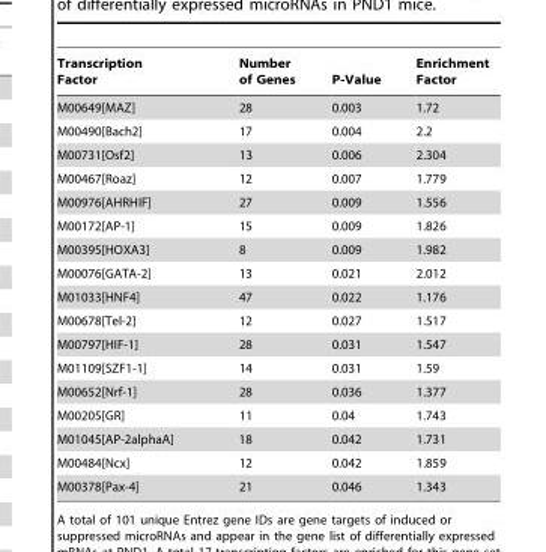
<table><thead><tr><td>Transcription Factor</td><td>Number of Genes</td><td>P-Value</td><td>Enrichment Factor</td></tr></thead><tbody><tr><td>M00649[MAZ]</td><td>28</td><td>0.003</td><td>1.72</td></tr><tr><td>M00490[Bach2]</td><td>17</td><td>0.004</td><td>2.2</td></tr><tr><td>M00731[Osf2]</td><td>13</td><td>0.006</td><td>2.304</td></tr><tr><td>M00467[Roaz]</td><td>12</td><td>0.007</td><td>1.779</td></tr><tr><td>M00976[AHRHIF]</td><td>27</td><td>0.009</td><td>1.556</td></tr><tr><td>M00172[AP-1]</td><td>15</td><td>0.009</td><td>1.826</td></tr><tr><td>M00395[HOXA3]</td><td>8</td><td>0.009</td><td>1.982</td></tr><tr><td>M00076[GATA-2]</td><td>13</td><td>0.021</td><td>2.012</td></tr><tr><td>M01033[HNF4]</td><td>47</td><td>0.022</td><td>1.176</td></tr><tr><td>M00678[Tel-2]</td><td>12</td><td>0.027</td><td>1.517</td></tr><tr><td>M00797[HIF-1]</td><td>28</td><td>0.031</td><td>1.547</td></tr><tr><td>M01109[SZF1-1]</td><td>14</td><td>0.031</td><td>1.59</td></tr><tr><td>M00652[Nrf-1]</td><td>28</td><td>0.036</td><td>1.377</td></tr><tr><td>M00205[GR]</td><td>11</td><td>0.04</td><td>1.743</td></tr><tr><td>M01045[AP-2alphaA]</td><td>18</td><td>0.042</td><td>1.731</td></tr><tr><td>M00484[Ncx]</td><td>12</td><td>0.042</td><td>1.859</td></tr><tr><td>M00378[Pax-4]</td><td>21</td><td>0.046</td><td>1.343</td></tr></tbody></table>